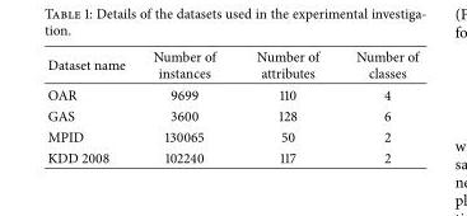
<table><thead><tr><td>Dataset name</td><td>Number of instances</td><td>Number of attributes</td><td>Number of classes</td></tr></thead><tbody><tr><td>OAR</td><td>9699</td><td>110</td><td>4</td></tr><tr><td>GAS</td><td>3600</td><td>128</td><td>6</td></tr><tr><td>MPID</td><td>130065</td><td>50</td><td>2</td></tr><tr><td>KDD 2008</td><td>102240</td><td>117</td><td>2</td></tr></tbody></table>